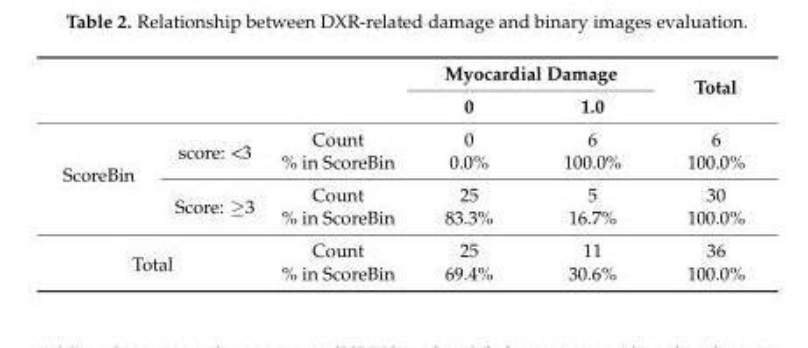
<table><thead><tr><td rowspan="2"></td><td rowspan="2"></td><td rowspan="2"></td><td colspan="2">Myocardial Damage</td><td rowspan="2">Total</td></tr><tr><td>0</td><td>1.0</td></tr></thead><tbody><tr><td rowspan="4">ScoreBin</td><td rowspan="2">score: &lt;3</td><td>Count</td><td>0</td><td>6</td><td>6</td></tr><tr><td>% in ScoreBin</td><td>0.0%</td><td>100.0%</td><td>100.0%</td></tr><tr><td rowspan="2">Score: ≥3</td><td>Count</td><td>25</td><td>5</td><td>30</td></tr><tr><td>% in ScoreBin</td><td>83.3%</td><td>16.7%</td><td>100.0%</td></tr><tr><td rowspan="2" colspan="2">Total</td><td>Count</td><td>25</td><td>11</td><td>36</td></tr><tr><td>% in ScoreBin</td><td>69.4%</td><td>30.6%</td><td>100.0%</td></tr></tbody></table>